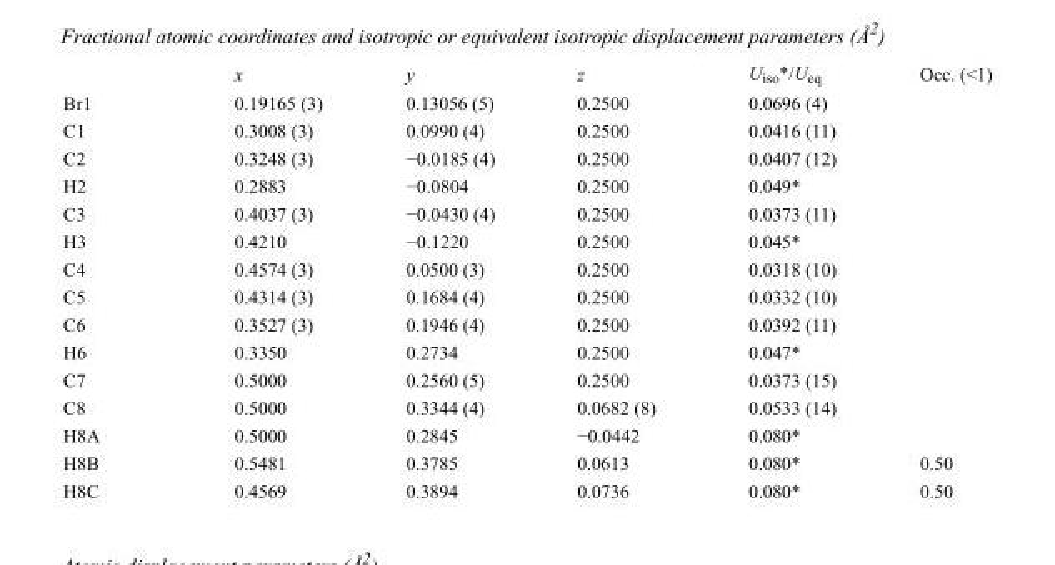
<table><thead><tr><td></td><td>x</td><td>y</td><td>z</td><td>U<sub>iso</sub>*/U<sub>eq</sub></td><td>Occ. (&lt;1)</td></tr></thead><tbody><tr><td>Br1</td><td>0.19165 (3)</td><td>0.13056 (5)</td><td>0.2500</td><td>0.0696 (4)</td><td></td></tr><tr><td>C1</td><td>0.3008 (3)</td><td>0.0990 (4)</td><td>0.2500</td><td>0.0416 (11)</td><td></td></tr><tr><td>C2</td><td>0.3248 (3)</td><td>−0.0185 (4)</td><td>0.2500</td><td>0.0407 (12)</td><td></td></tr><tr><td>H2</td><td>0.2883</td><td>−0.0804</td><td>0.2500</td><td>0.049*</td><td></td></tr><tr><td>C3</td><td>0.4037 (3)</td><td>−0.0430 (4)</td><td>0.2500</td><td>0.0373 (11)</td><td></td></tr><tr><td>H3</td><td>0.4210</td><td>−0.1220</td><td>0.2500</td><td>0.045*</td><td></td></tr><tr><td>C4</td><td>0.4574 (3)</td><td>0.0500 (3)</td><td>0.2500</td><td>0.0318 (10)</td><td></td></tr><tr><td>C5</td><td>0.4314 (3)</td><td>0.1684 (4)</td><td>0.2500</td><td>0.0332 (10)</td><td></td></tr><tr><td>C6</td><td>0.3527 (3)</td><td>0.1946 (4)</td><td>0.2500</td><td>0.0392 (11)</td><td></td></tr><tr><td>H6</td><td>0.3350</td><td>0.2734</td><td>0.2500</td><td>0.047*</td><td></td></tr><tr><td>C7</td><td>0.5000</td><td>0.2560 (5)</td><td>0.2500</td><td>0.0373 (15)</td><td></td></tr><tr><td>C8</td><td>0.5000</td><td>0.3344 (4)</td><td>0.0682 (8)</td><td>0.0533 (14)</td><td></td></tr><tr><td>H8A</td><td>0.5000</td><td>0.2845</td><td>−0.0442</td><td>0.080*</td><td></td></tr><tr><td>H8B</td><td>0.5481</td><td>0.3785</td><td>0.0613</td><td>0.080*</td><td>0.50</td></tr><tr><td>H8C</td><td>0.4569</td><td>0.3894</td><td>0.0736</td><td>0.080*</td><td>0.50</td></tr></tbody></table>